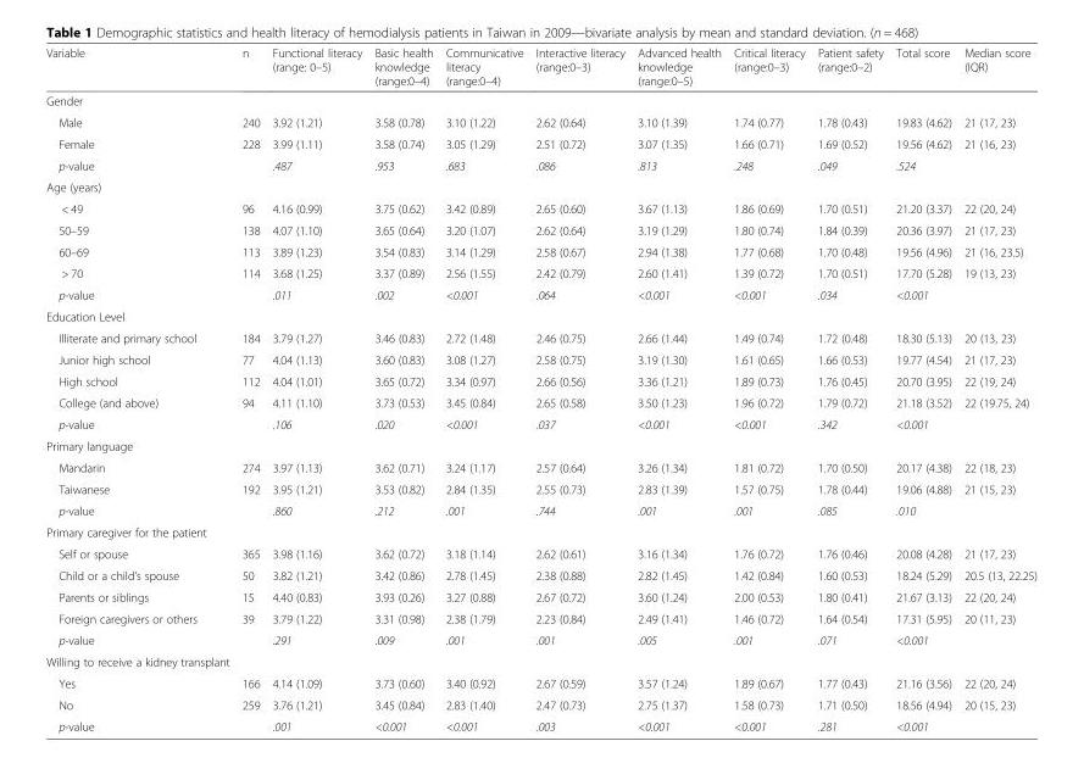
<table><thead><tr><td>Variable</td><td>n</td><td>Functional literacy (range: 0–5)</td><td>Basic health knowledge (range:0–4)</td><td>Communicative literacy (range:0–4)</td><td>Interactive literacy (range:0–3)</td><td>Advanced health knowledge (range:0–5)</td><td>Critical literacy (range:0–3)</td><td>Patient safety (range:0–2)</td><td>Total score</td><td>Median score (IQR)</td></tr></thead><tbody><tr><td colspan="11">Gender</td></tr><tr><td>Male</td><td>240</td><td>3.92 (1.21)</td><td>3.58 (0.78)</td><td>3.10 (1.22)</td><td>2.62 (0.64)</td><td>3.10 (1.39)</td><td>1.74 (0.77)</td><td>1.78 (0.43)</td><td>19.83 (4.62)</td><td>21 (17, 23)</td></tr><tr><td>Female</td><td>228</td><td>3.99 (1.11)</td><td>3.58 (0.74)</td><td>3.05 (1.29)</td><td>2.51 (0.72)</td><td>3.07 (1.35)</td><td>1.66 (0.71)</td><td>1.69 (0.52)</td><td>19.56 (4.62)</td><td>21 (16, 23)</td></tr><tr><td>p-value</td><td></td><td>.487</td><td>.953</td><td>.683</td><td>.086</td><td>.813</td><td>.248</td><td>.049</td><td>.524</td><td></td></tr><tr><td colspan="11">Age (years)</td></tr><tr><td>&lt; 49</td><td>96</td><td>4.16 (0.99)</td><td>3.75 (0.62)</td><td>3.42 (0.89)</td><td>2.65 (0.60)</td><td>3.67 (1.13)</td><td>1.86 (0.69)</td><td>1.70 (0.51)</td><td>21.20 (3.37)</td><td>22 (20, 24)</td></tr><tr><td>50–59</td><td>138</td><td>4.07 (1.10)</td><td>3.65 (0.64)</td><td>3.20 (1.07)</td><td>2.62 (0.64)</td><td>3.19 (1.29)</td><td>1.80 (0.74)</td><td>1.84 (0.39)</td><td>20.36 (3.97)</td><td>21 (17, 23)</td></tr><tr><td>60–69</td><td>113</td><td>3.89 (1.23)</td><td>3.54 (0.83)</td><td>3.14 (1.29)</td><td>2.58 (0.67)</td><td>2.94 (1.38)</td><td>1.77 (0.68)</td><td>1.70 (0.48)</td><td>19.56 (4.96)</td><td>21 (16, 23.5)</td></tr><tr><td>&gt; 70</td><td>114</td><td>3.68 (1.25)</td><td>3.37 (0.89)</td><td>2.56 (1.55)</td><td>2.42 (0.79)</td><td>2.60 (1.41)</td><td>1.39 (0.72)</td><td>1.70 (0.51)</td><td>17.70 (5.28)</td><td>19 (13, 23)</td></tr><tr><td>p-value</td><td></td><td>.011</td><td>.002</td><td>&lt;0.001</td><td>.064</td><td>&lt;0.001</td><td>&lt;0.001</td><td>.034</td><td>&lt;0.001</td><td></td></tr><tr><td colspan="11">Education Level</td></tr><tr><td>Illiterate and primary school</td><td>184</td><td>3.79 (1.27)</td><td>3.46 (0.83)</td><td>2.72 (1.48)</td><td>2.46 (0.75)</td><td>2.66 (1.44)</td><td>1.49 (0.74)</td><td>1.72 (0.48)</td><td>18.30 (5.13)</td><td>20 (13, 23)</td></tr><tr><td>Junior high school</td><td>77</td><td>4.04 (1.13)</td><td>3.60 (0.83)</td><td>3.08 (1.27)</td><td>2.58 (0.75)</td><td>3.19 (1.30)</td><td>1.61 (0.65)</td><td>1.66 (0.53)</td><td>19.77 (4.54)</td><td>21 (17, 23)</td></tr><tr><td>High school</td><td>112</td><td>4.04 (1.01)</td><td>3.65 (0.72)</td><td>3.34 (0.97)</td><td>2.66 (0.56)</td><td>3.36 (1.21)</td><td>1.89 (0.73)</td><td>1.76 (0.45)</td><td>20.70 (3.95)</td><td>22 (19, 24)</td></tr><tr><td>College (and above)</td><td>94</td><td>4.11 (1.10)</td><td>3.73 (0.53)</td><td>3.45 (0.84)</td><td>2.65 (0.58)</td><td>3.50 (1.23)</td><td>1.96 (0.72)</td><td>1.79 (0.72)</td><td>21.18 (3.52)</td><td>22 (19.75, 24)</td></tr><tr><td>p-value</td><td></td><td>.106</td><td>.020</td><td>&lt;0.001</td><td>.037</td><td>&lt;0.001</td><td>&lt;0.001</td><td>.342</td><td>&lt;0.001</td><td></td></tr><tr><td colspan="11">Primary language</td></tr><tr><td>Mandarin</td><td>274</td><td>3.97 (1.13)</td><td>3.62 (0.71)</td><td>3.24 (1.17)</td><td>2.57 (0.64)</td><td>3.26 (1.34)</td><td>1.81 (0.72)</td><td>1.70 (0.50)</td><td>20.17 (4.38)</td><td>22 (18, 23)</td></tr><tr><td>Taiwanese</td><td>192</td><td>3.95 (1.21)</td><td>3.53 (0.82)</td><td>2.84 (1.35)</td><td>2.55 (0.73)</td><td>2.83 (1.39)</td><td>1.57 (0.75)</td><td>1.78 (0.44)</td><td>19.06 (4.88)</td><td>21 (15, 23)</td></tr><tr><td>p-value</td><td></td><td>.860</td><td>.212</td><td>.001</td><td>.744</td><td>.001</td><td>.001</td><td>.085</td><td>.010</td><td></td></tr><tr><td colspan="11">Primary caregiver for the patient</td></tr><tr><td>Self or spouse</td><td>365</td><td>3.98 (1.16)</td><td>3.62 (0.72)</td><td>3.18 (1.14)</td><td>2.62 (0.61)</td><td>3.16 (1.34)</td><td>1.76 (0.72)</td><td>1.76 (0.46)</td><td>20.08 (4.28)</td><td>21 (17, 23)</td></tr><tr><td>Child or a child’s spouse</td><td>50</td><td>3.82 (1.21)</td><td>3.42 (0.86)</td><td>2.78 (1.45)</td><td>2.38 (0.88)</td><td>2.82 (1.45)</td><td>1.42 (0.84)</td><td>1.60 (0.53)</td><td>18.24 (5.29)</td><td>20.5 (13, 22.25)</td></tr><tr><td>Parents or siblings</td><td>15</td><td>4.40 (0.83)</td><td>3.93 (0.26)</td><td>3.27 (0.88)</td><td>2.67 (0.72)</td><td>3.60 (1.24)</td><td>2.00 (0.53)</td><td>1.80 (0.41)</td><td>21.67 (3.13)</td><td>22 (20, 24)</td></tr><tr><td>Foreign caregivers or others</td><td>39</td><td>3.79 (1.22)</td><td>3.31 (0.98)</td><td>2.38 (1.79)</td><td>2.23 (0.84)</td><td>2.49 (1.41)</td><td>1.46 (0.72)</td><td>1.64 (0.54)</td><td>17.31 (5.95)</td><td>20 (11, 23)</td></tr><tr><td>p-value</td><td></td><td>.291</td><td>.009</td><td>.001</td><td>.001</td><td>.005</td><td>.001</td><td>.071</td><td>&lt;0.001</td><td></td></tr><tr><td colspan="11">Willing to receive a kidney transplant</td></tr><tr><td>Yes</td><td>166</td><td>4.14 (1.09)</td><td>3.73 (0.60)</td><td>3.40 (0.92)</td><td>2.67 (0.59)</td><td>3.57 (1.24)</td><td>1.89 (0.67)</td><td>1.77 (0.43)</td><td>21.16 (3.56)</td><td>22 (20, 24)</td></tr><tr><td>No</td><td>259</td><td>3.76 (1.21)</td><td>3.45 (0.84)</td><td>2.83 (1.40)</td><td>2.47 (0.73)</td><td>2.75 (1.37)</td><td>1.58 (0.73)</td><td>1.71 (0.50)</td><td>18.56 (4.94)</td><td>20 (15, 23)</td></tr><tr><td>p-value</td><td></td><td>.001</td><td>&lt;0.001</td><td>&lt;0.001</td><td>.003</td><td>&lt;0.001</td><td>&lt;0.001</td><td>.281</td><td>&lt;0.001</td><td></td></tr></tbody></table>